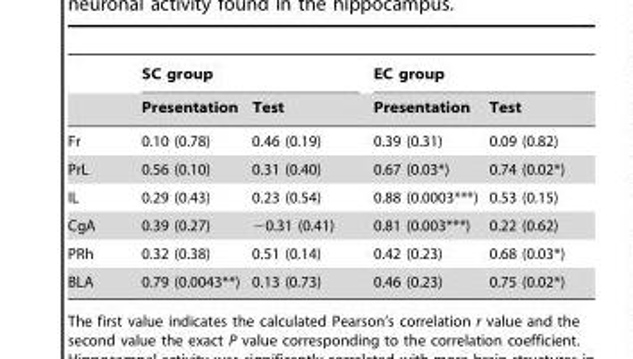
<table><thead><tr><td rowspan="2"></td><td colspan="2">SC group</td><td colspan="2">EC group</td></tr><tr><td>Presentation</td><td>Test</td><td>Presentation</td><td>Test</td></tr></thead><tbody><tr><td>Fr</td><td>0.10 (0.78)</td><td>0.46 (0.19)</td><td>0.39 (0.31)</td><td>0.09 (0.82)</td></tr><tr><td>PrL</td><td>0.56 (0.10)</td><td>0.31 (0.40)</td><td>0.67 (0.03*)</td><td>0.74 (0.02*)</td></tr><tr><td>IL</td><td>0.29 (0.43)</td><td>0.23 (0.54)</td><td>0.88 (0.0003***)</td><td>0.53 (0.15)</td></tr><tr><td>CgA</td><td>0.39 (0.27)</td><td>−0.31 (0.41)</td><td>0.81 (0.003***)</td><td>0.22 (0.62)</td></tr><tr><td>PRh</td><td>0.32 (0.38)</td><td>0.51 (0.14)</td><td>0.42 (0.23)</td><td>0.68 (0.03*)</td></tr><tr><td>BLA</td><td>0.79 (0.0043**)</td><td>0.13 (0.73)</td><td>0.46 (0.23)</td><td>0.75 (0.02*)</td></tr></tbody></table>